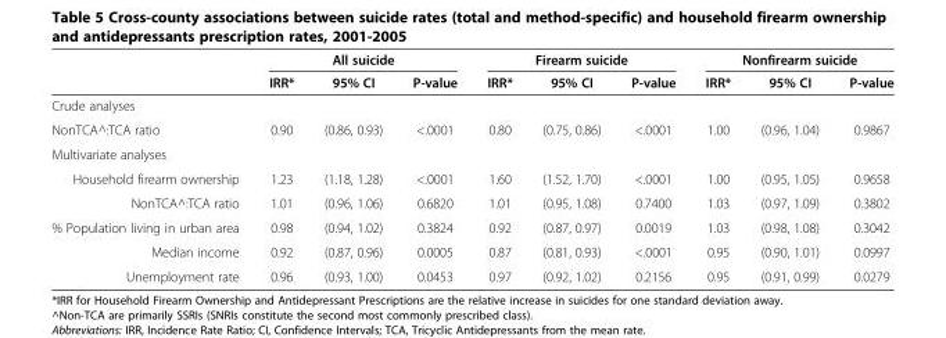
<table><thead><tr><td rowspan="2"></td><td colspan="3">All suicide</td><td colspan="3">Firearm suicide</td><td colspan="3">Nonfirearm suicide</td></tr><tr><td>IRR*</td><td>95% CI</td><td>P-value</td><td>IRR*</td><td>95% CI</td><td>P-value</td><td>IRR*</td><td>95% CI</td><td>P-value</td></tr></thead><tbody><tr><td colspan="10">Crude analyses</td></tr><tr><td>NonTCA^:TCA ratio</td><td>0.90</td><td>(0.86, 0.93)</td><td>&lt;.0001</td><td>0.80</td><td>(0.75, 0.86)</td><td>&lt;.0001</td><td>1.00</td><td>(0.96, 1.04)</td><td>0.9867</td></tr><tr><td colspan="10">Multivariate analyses</td></tr><tr><td>Household firearm ownership</td><td>1.23</td><td>(1.18, 1.28)</td><td>&lt;.0001</td><td>1.60</td><td>(1.52, 1.70)</td><td>&lt;.0001</td><td>1.00</td><td>(0.95, 1.05)</td><td>0.9658</td></tr><tr><td>NonTCA^:TCA ratio</td><td>1.01</td><td>(0.96, 1.06)</td><td>0.6820</td><td>1.01</td><td>(0.95, 1.08)</td><td>0.7400</td><td>1.03</td><td>(0.97, 1.09)</td><td>0.3802</td></tr><tr><td>% Population living in urban area</td><td>0.98</td><td>(0.94, 1.02)</td><td>0.3824</td><td>0.92</td><td>(0.87, 0.97)</td><td>0.0019</td><td>1.03</td><td>(0.98, 1.08)</td><td>0.3042</td></tr><tr><td>Median income</td><td>0.92</td><td>(0.87, 0.96)</td><td>0.0005</td><td>0.87</td><td>(0.81, 0.93)</td><td>&lt;.0001</td><td>0.95</td><td>(0.90, 1.01)</td><td>0.0997</td></tr><tr><td>Unemployment rate</td><td>0.96</td><td>(0.93, 1.00)</td><td>0.0453</td><td>0.97</td><td>(0.92, 1.02)</td><td>0.2156</td><td>0.95</td><td>(0.91, 0.99)</td><td>0.0279</td></tr></tbody></table>